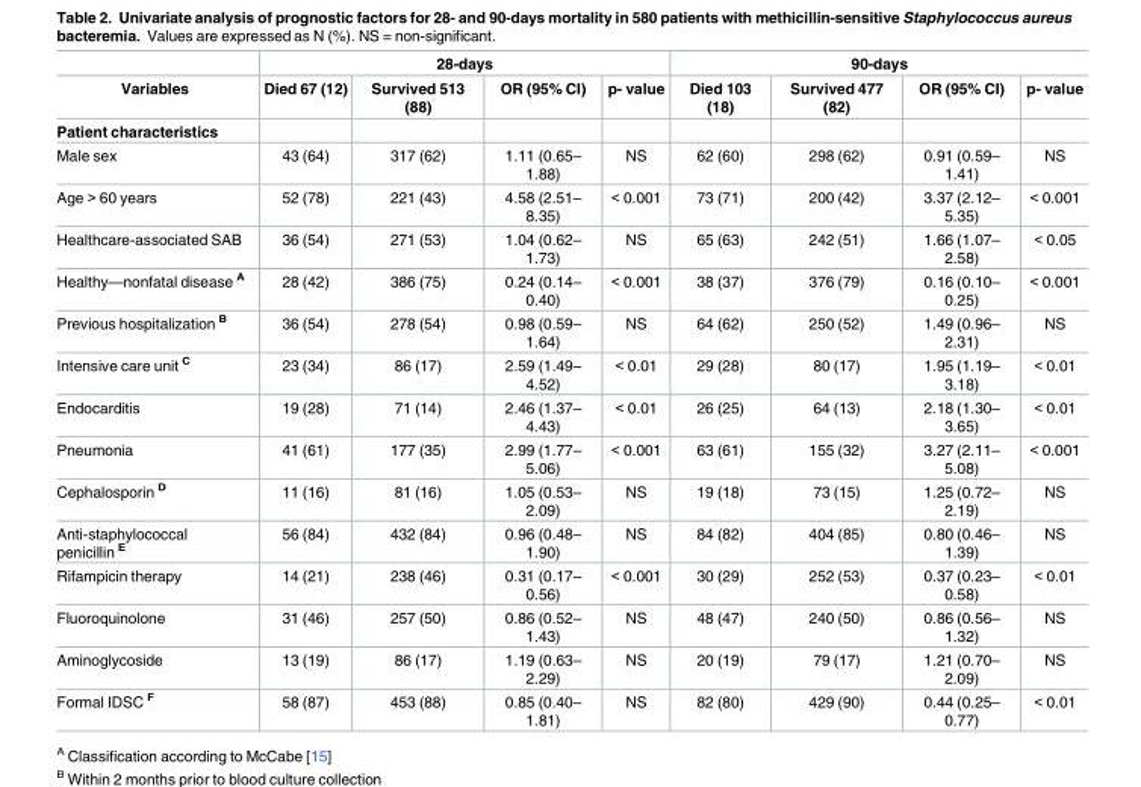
<table><thead><tr><td rowspan="2">Variables</td><td colspan="4">28-days</td><td colspan="4">90-days</td></tr><tr><td>Died 67 (12)</td><td>Survived 513 (88)</td><td>OR (95% CI)</td><td>p- value</td><td>Died 103 (18)</td><td>Survived 477 (82)</td><td>OR (95% CI)</td><td>p- value</td></tr></thead><tbody><tr><td colspan="9">Patient characteristics</td></tr><tr><td>Male sex</td><td>43 (64)</td><td>317 (62)</td><td>1.11 (0.65– 1.88)</td><td>NS</td><td>62 (60)</td><td>298 (62)</td><td>0.91 (0.59– 1.41)</td><td>NS</td></tr><tr><td>Age &gt; 60 years</td><td>52 (78)</td><td>221 (43)</td><td>4.58 (2.51– 8.35)</td><td>&lt; 0.001</td><td>73 (71)</td><td>200 (42)</td><td>3.37 (2.12– 5.35)</td><td>&lt; 0.001</td></tr><tr><td>Healthcare-associated SAB</td><td>36 (54)</td><td>271 (53)</td><td>1.04 (0.62– 1.73)</td><td>NS</td><td>65 (63)</td><td>242 (51)</td><td>1.66 (1.07– 2.58)</td><td>&lt; 0.05</td></tr><tr><td>Healthy—nonfatal disease <sup>A</sup></td><td>28 (42)</td><td>386 (75)</td><td>0.24 (0.14– 0.40)</td><td>&lt; 0.001</td><td>38 (37)</td><td>376 (79)</td><td>0.16 (0.10– 0.25)</td><td>&lt; 0.001</td></tr><tr><td>Previous hospitalization <sup>B</sup></td><td>36 (54)</td><td>278 (54)</td><td>0.98 (0.59– 1.64)</td><td>NS</td><td>64 (62)</td><td>250 (52)</td><td>1.49 (0.96– 2.31)</td><td>NS</td></tr><tr><td>Intensive care unit <sup>C</sup></td><td>23 (34)</td><td>86 (17)</td><td>2.59 (1.49– 4.52)</td><td>&lt; 0.01</td><td>29 (28)</td><td>80 (17)</td><td>1.95 (1.19– 3.18)</td><td>&lt; 0.01</td></tr><tr><td>Endocarditis</td><td>19 (28)</td><td>71 (14)</td><td>2.46 (1.37– 4.43)</td><td>&lt; 0.01</td><td>26 (25)</td><td>64 (13)</td><td>2.18 (1.30– 3.65)</td><td>&lt; 0.01</td></tr><tr><td>Pneumonia</td><td>41 (61)</td><td>177 (35)</td><td>2.99 (1.77– 5.06)</td><td>&lt; 0.001</td><td>63 (61)</td><td>155 (32)</td><td>3.27 (2.11– 5.08)</td><td>&lt; 0.001</td></tr><tr><td>Cephalosporin <sup>D</sup></td><td>11 (16)</td><td>81 (16)</td><td>1.05 (0.53– 2.09)</td><td>NS</td><td>19 (18)</td><td>73 (15)</td><td>1.25 (0.72– 2.19)</td><td>NS</td></tr><tr><td>Anti-staphylococcal penicillin <sup>E</sup></td><td>56 (84)</td><td>432 (84)</td><td>0.96 (0.48– 1.90)</td><td>NS</td><td>84 (82)</td><td>404 (85)</td><td>0.80 (0.46– 1.39)</td><td>NS</td></tr><tr><td>Rifampicin therapy</td><td>14 (21)</td><td>238 (46)</td><td>0.31 (0.17– 0.56)</td><td>&lt; 0.001</td><td>30 (29)</td><td>252 (53)</td><td>0.37 (0.23– 0.58)</td><td>&lt; 0.01</td></tr><tr><td>Fluoroquinolone</td><td>31 (46)</td><td>257 (50)</td><td>0.86 (0.52– 1.43)</td><td>NS</td><td>48 (47)</td><td>240 (50)</td><td>0.86 (0.56– 1.32)</td><td>NS</td></tr><tr><td>Aminoglycoside</td><td>13 (19)</td><td>86 (17)</td><td>1.19 (0.63– 2.29)</td><td>NS</td><td>20 (19)</td><td>79 (17)</td><td>1.21 (0.70– 2.09)</td><td>NS</td></tr><tr><td>Formal IDSC <sup>F</sup></td><td>58 (87)</td><td>453 (88)</td><td>0.85 (0.40– 1.81)</td><td>NS</td><td>82 (80)</td><td>429 (90)</td><td>0.44 (0.25– 0.77)</td><td>&lt; 0.01</td></tr></tbody></table>